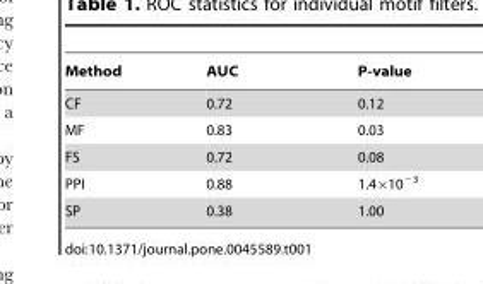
<table><thead><tr><td>Method</td><td>AUC</td><td>P-value</td></tr></thead><tbody><tr><td>CF</td><td>0.72</td><td>0.12</td></tr><tr><td>MF</td><td>0.83</td><td>0.03</td></tr><tr><td>FS</td><td>0.72</td><td>0.08</td></tr><tr><td>PPI</td><td>0.88</td><td>1.4×10<sup>−3</sup></td></tr><tr><td>SP</td><td>0.38</td><td>1.00</td></tr></tbody></table>